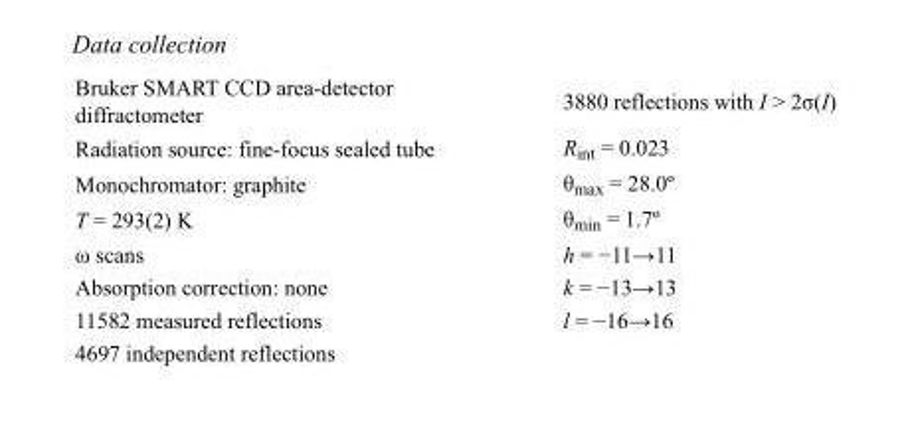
<table><tbody><tr><td>Bruker SMART CCD area-detector diffractometer</td><td>3880 reflections with I &gt; 2σ(I)</td></tr><tr><td>Radiation source: fine-focus sealed tube</td><td>R<sub>int</sub> = 0.023</td></tr><tr><td>Monochromator: graphite</td><td>θ<sub>max</sub> = 28.0º</td></tr><tr><td>T = 293(2) K</td><td>θ<sub>min</sub> = 1.7º</td></tr><tr><td>ω scans</td><td>h = −11→11</td></tr><tr><td>Absorption correction: none</td><td>k = −13→13</td></tr><tr><td>11582 measured reflections</td><td>l = −16→16</td></tr><tr><td>4697 independent reflections</td><td></td></tr></tbody></table>